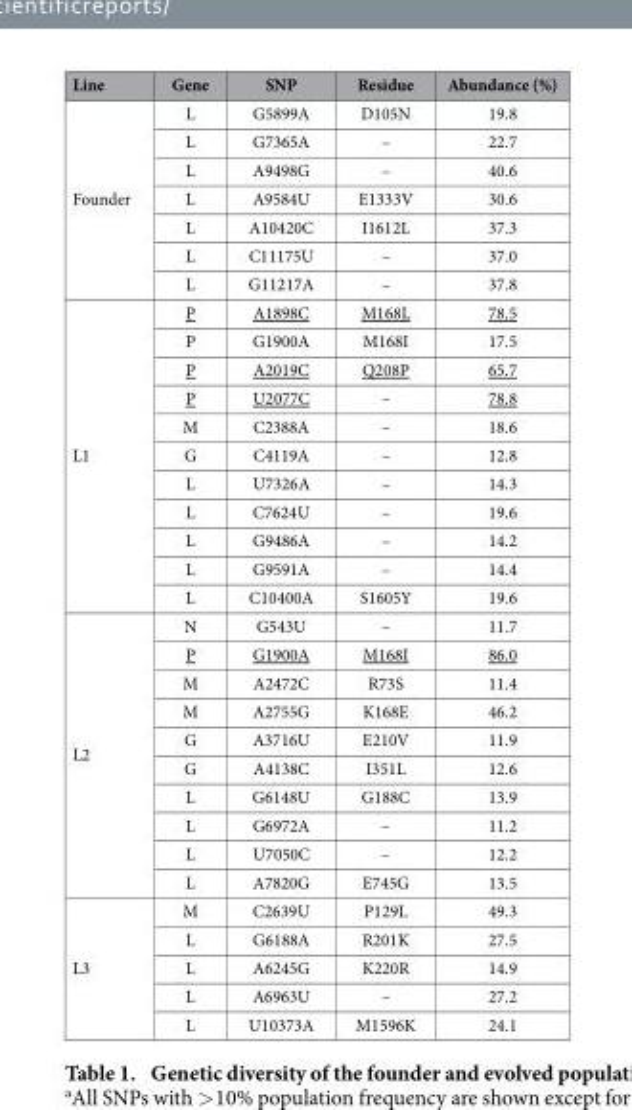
<table><thead><tr><td>Line</td><td>Gene</td><td>SNP</td><td>Residue</td><td>Abundance (%)</td></tr></thead><tbody><tr><td rowspan="7">Founder</td><td>L</td><td>G5899A</td><td>D105N</td><td>19.8</td></tr><tr><td>L</td><td>G7365A</td><td>–</td><td>22.7</td></tr><tr><td>L</td><td>A9498G</td><td>–</td><td>40.6</td></tr><tr><td>L</td><td>A9584U</td><td>E1333V</td><td>30.6</td></tr><tr><td>L</td><td>A10420C</td><td>I1612L</td><td>37.3</td></tr><tr><td>L</td><td>C11175U</td><td>–</td><td>37.0</td></tr><tr><td>L</td><td>G11217A</td><td>–</td><td>37.8</td></tr><tr><td rowspan="11">L1</td><td>P</td><td>A1898C</td><td>M168L</td><td>78.5</td></tr><tr><td>P</td><td>G1900A</td><td>M168I</td><td>17.5</td></tr><tr><td>P</td><td>A2019C</td><td>Q208P</td><td>65.7</td></tr><tr><td>P</td><td>U2077C</td><td>–</td><td>78.8</td></tr><tr><td>M</td><td>C2388A</td><td>–</td><td>18.6</td></tr><tr><td>G</td><td>C4119A</td><td>–</td><td>12.8</td></tr><tr><td>L</td><td>U7326A</td><td>–</td><td>14.3</td></tr><tr><td>L</td><td>C7624U</td><td>–</td><td>19.6</td></tr><tr><td>L</td><td>G9486A</td><td>–</td><td>14.2</td></tr><tr><td>L</td><td>G9591A</td><td>–</td><td>14.4</td></tr><tr><td>L</td><td>C10400A</td><td>S1605Y</td><td>19.6</td></tr><tr><td rowspan="10">L2</td><td>N</td><td>G543U</td><td>–</td><td>11.7</td></tr><tr><td>P</td><td>G1900A</td><td>M168I</td><td>86.0</td></tr><tr><td>M</td><td>A2472C</td><td>R73S</td><td>11.4</td></tr><tr><td>M</td><td>A2755G</td><td>K168E</td><td>46.2</td></tr><tr><td>G</td><td>A3716U</td><td>E210V</td><td>11.9</td></tr><tr><td>G</td><td>A4138C</td><td>I351L</td><td>12.6</td></tr><tr><td>L</td><td>G6148U</td><td>G188C</td><td>13.9</td></tr><tr><td>L</td><td>G6972A</td><td>–</td><td>11.2</td></tr><tr><td>L</td><td>U7050C</td><td>–</td><td>12.2</td></tr><tr><td>L</td><td>A7820G</td><td>E745G</td><td>13.5</td></tr><tr><td rowspan="5">L3</td><td>M</td><td>C2639U</td><td>P129L</td><td>49.3</td></tr><tr><td>L</td><td>G6188A</td><td>R201K</td><td>27.5</td></tr><tr><td>L</td><td>A6245G</td><td>K220R</td><td>14.9</td></tr><tr><td>L</td><td>A6963U</td><td>–</td><td>27.2</td></tr><tr><td>L</td><td>U10373A</td><td>M1596K</td><td>24.1</td></tr></tbody></table>